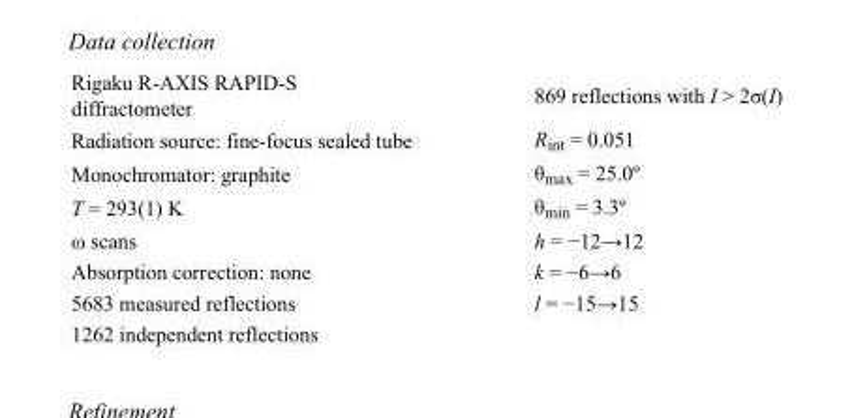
<table><tbody><tr><td>Rigaku R-AXIS RAPID-S diffractometer</td><td>869 reflections with I &gt; 2σ(I)</td></tr><tr><td>Radiation source: fine-focus sealed tube</td><td>R<sub>int</sub> = 0.051</td></tr><tr><td>Monochromator: graphite</td><td>θ<sub>max</sub> = 25.0º</td></tr><tr><td>T = 293(1) K</td><td>θ<sub>min</sub> = 3.3º</td></tr><tr><td>ω scans</td><td>h = −12→12</td></tr><tr><td>Absorption correction: none</td><td>k = −6→6</td></tr><tr><td>5683 measured reflections</td><td>l = −15→15</td></tr><tr><td>1262 independent reflections</td><td></td></tr></tbody></table>